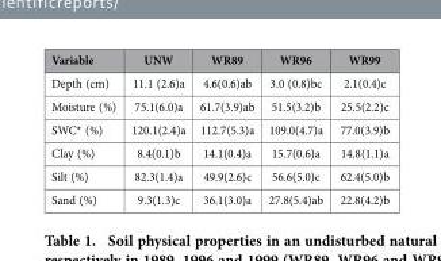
<table><thead><tr><td>Variable</td><td>UNW</td><td>WR89</td><td>WR96</td><td>WR99</td></tr></thead><tbody><tr><td>Depth (cm)</td><td>11.1 (2.6)a</td><td>4.6(0.6)ab</td><td>3.0 (0.8)bc</td><td>2.1(0.4)c</td></tr><tr><td>Moisture (%)</td><td>75.1(6.0)a</td><td>61.7(3.9)ab</td><td>51.5(3.2)b</td><td>25.5(2.2)c</td></tr><tr><td>SWC* (%)</td><td>120.1(2.4)a</td><td>112.7(5.3)a</td><td>109.0(4.7)a</td><td>77.0(3.9)b</td></tr><tr><td>Clay (%)</td><td>8.4(0.1)b</td><td>14.1(0.4)a</td><td>15.7(0.6)a</td><td>14.8(1.1)a</td></tr><tr><td>Silt (%)</td><td>82.3(1.4)a</td><td>49.9(2.6)c</td><td>56.6(5.0)c</td><td>62.4(5.0)b</td></tr><tr><td>Sand (%)</td><td>9.3(1.3)c</td><td>36.1(3.0)a</td><td>27.8(5.4)ab</td><td>22.8(4.2)b</td></tr></tbody></table>